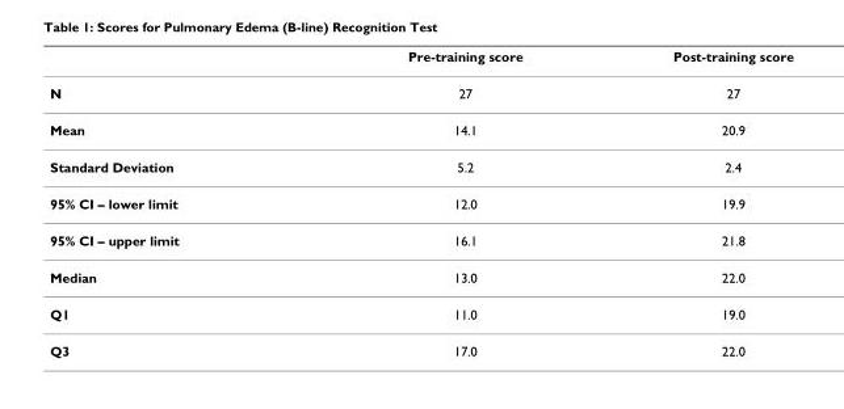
<table><thead><tr><td></td><td>Pre-training score</td><td>Post-training score</td></tr></thead><tbody><tr><td>N</td><td>27</td><td>27</td></tr><tr><td>Mean</td><td>14.1</td><td>20.9</td></tr><tr><td>Standard Deviation</td><td>5.2</td><td>2.4</td></tr><tr><td>95% CI – lower limit</td><td>12.0</td><td>19.9</td></tr><tr><td>95% CI – upper limit</td><td>16.1</td><td>21.8</td></tr><tr><td>Median</td><td>13.0</td><td>22.0</td></tr><tr><td>Q1</td><td>11.0</td><td>19.0</td></tr><tr><td>Q3</td><td>17.0</td><td>22.0</td></tr></tbody></table>